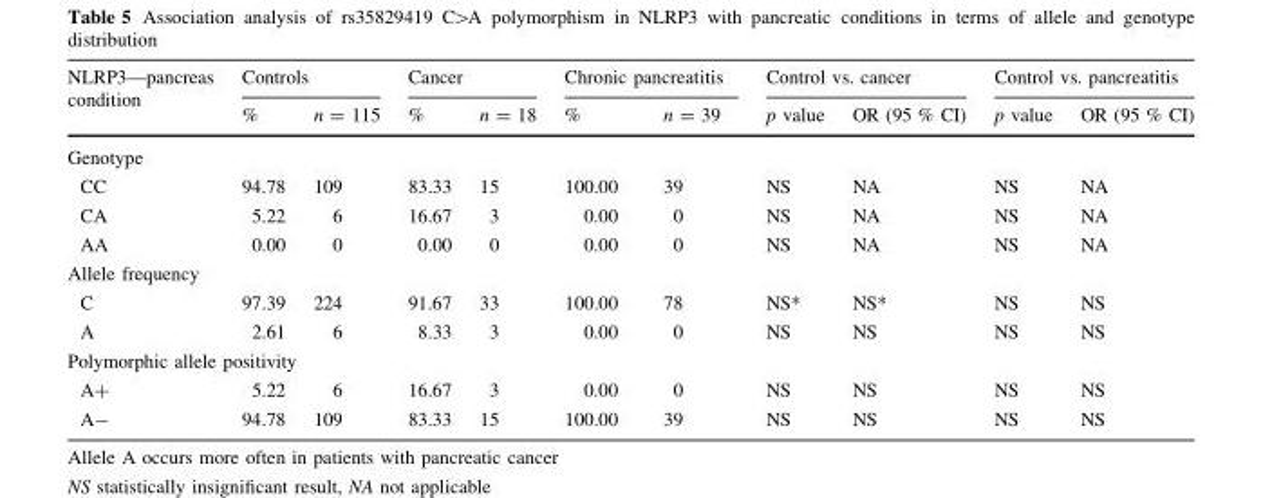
<table><thead><tr><td rowspan="2">NLRP3—pancreas condition</td><td colspan="2">Controls</td><td colspan="2">Cancer</td><td colspan="2">Chronic pancreatitis</td><td colspan="2">Control vs. cancer</td><td colspan="2">Control vs. pancreatitis</td></tr><tr><td>%</td><td>n = 115</td><td>%</td><td>n = 18</td><td>%</td><td>n = 39</td><td>p value</td><td>OR (95 % CI)</td><td>p value</td><td>OR (95 % CI)</td></tr></thead><tbody><tr><td colspan="11">Genotype</td></tr><tr><td>CC</td><td>94.78</td><td>109</td><td>83.33</td><td>15</td><td>100.00</td><td>39</td><td>NS</td><td>NA</td><td>NS</td><td>NA</td></tr><tr><td>CA</td><td>5.22</td><td>6</td><td>16.67</td><td>3</td><td>0.00</td><td>0</td><td>NS</td><td>NA</td><td>NS</td><td>NA</td></tr><tr><td>AA</td><td>0.00</td><td>0</td><td>0.00</td><td>0</td><td>0.00</td><td>0</td><td>NS</td><td>NA</td><td>NS</td><td>NA</td></tr><tr><td colspan="11">Allele frequency</td></tr><tr><td>C</td><td>97.39</td><td>224</td><td>91.67</td><td>33</td><td>100.00</td><td>78</td><td>NS*</td><td>NS*</td><td>NS</td><td>NS</td></tr><tr><td>A</td><td>2.61</td><td>6</td><td>8.33</td><td>3</td><td>0.00</td><td>0</td><td>NS</td><td>NS</td><td>NS</td><td>NS</td></tr><tr><td colspan="11">Polymorphic allele positivity</td></tr><tr><td>A+</td><td>5.22</td><td>6</td><td>16.67</td><td>3</td><td>0.00</td><td>0</td><td>NS</td><td>NS</td><td>NS</td><td>NS</td></tr><tr><td>A-</td><td>94.78</td><td>109</td><td>83.33</td><td>15</td><td>100.00</td><td>39</td><td>NS</td><td>NS</td><td>NS</td><td>NS</td></tr></tbody></table>